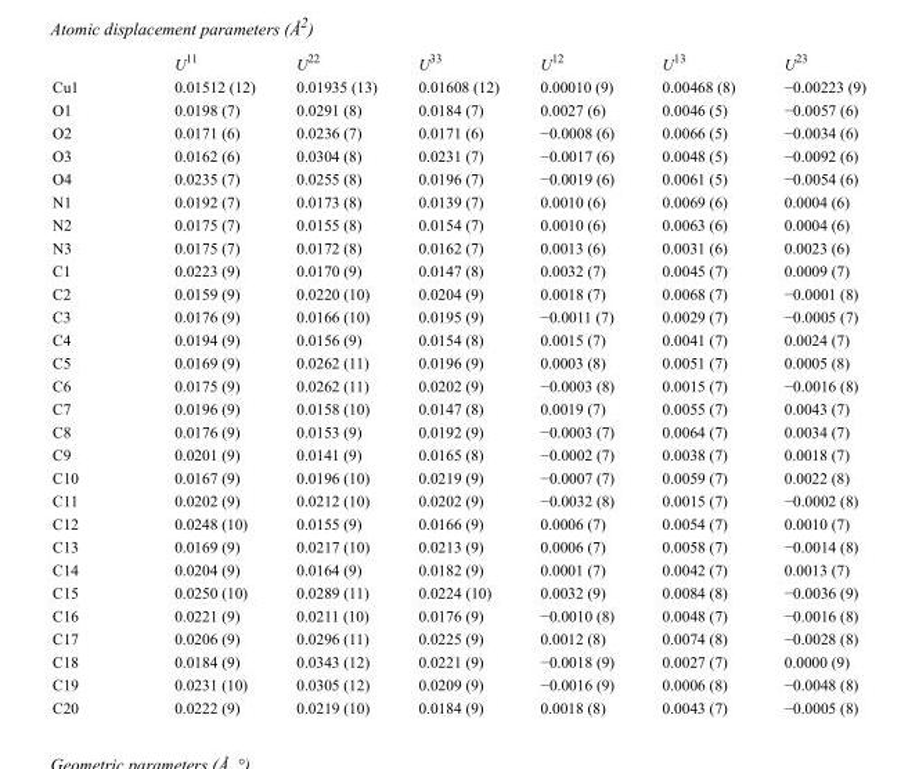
<table><thead><tr><td></td><td>U<sup>11</sup></td><td>U<sup>22</sup></td><td>U<sup>33</sup></td><td>U<sup>12</sup></td><td>U<sup>13</sup></td><td>U<sup>23</sup></td></tr></thead><tbody><tr><td>Cu1</td><td>0.01512 (12)</td><td>0.01935 (13)</td><td>0.01608 (12)</td><td>0.00010 (9)</td><td>0.00468 (8)</td><td>−0.00223 (9)</td></tr><tr><td>O1</td><td>0.0198 (7)</td><td>0.0291 (8)</td><td>0.0184 (7)</td><td>0.0027 (6)</td><td>0.0046 (5)</td><td>−0.0057 (6)</td></tr><tr><td>O2</td><td>0.0171 (6)</td><td>0.0236 (7)</td><td>0.0171 (6)</td><td>−0.0008 (6)</td><td>0.0066 (5)</td><td>−0.0034 (6)</td></tr><tr><td>O3</td><td>0.0162 (6)</td><td>0.0304 (8)</td><td>0.0231 (7)</td><td>−0.0017 (6)</td><td>0.0048 (5)</td><td>−0.0092 (6)</td></tr><tr><td>O4</td><td>0.0235 (7)</td><td>0.0255 (8)</td><td>0.0196 (7)</td><td>−0.0019 (6)</td><td>0.0061 (5)</td><td>−0.0054 (6)</td></tr><tr><td>N1</td><td>0.0192 (7)</td><td>0.0173 (8)</td><td>0.0139 (7)</td><td>0.0010 (6)</td><td>0.0069 (6)</td><td>0.0004 (6)</td></tr><tr><td>N2</td><td>0.0175 (7)</td><td>0.0155 (8)</td><td>0.0154 (7)</td><td>0.0010 (6)</td><td>0.0063 (6)</td><td>0.0004 (6)</td></tr><tr><td>N3</td><td>0.0175 (7)</td><td>0.0172 (8)</td><td>0.0162 (7)</td><td>0.0013 (6)</td><td>0.0031 (6)</td><td>0.0023 (6)</td></tr><tr><td>C1</td><td>0.0223 (9)</td><td>0.0170 (9)</td><td>0.0147 (8)</td><td>0.0032 (7)</td><td>0.0045 (7)</td><td>0.0009 (7)</td></tr><tr><td>C2</td><td>0.0159 (9)</td><td>0.0220 (10)</td><td>0.0204 (9)</td><td>0.0018 (7)</td><td>0.0068 (7)</td><td>−0.0001 (8)</td></tr><tr><td>C3</td><td>0.0176 (9)</td><td>0.0166 (10)</td><td>0.0195 (9)</td><td>−0.0011 (7)</td><td>0.0029 (7)</td><td>−0.0005 (7)</td></tr><tr><td>C4</td><td>0.0194 (9)</td><td>0.0156 (9)</td><td>0.0154 (8)</td><td>0.0015 (7)</td><td>0.0041 (7)</td><td>0.0024 (7)</td></tr><tr><td>C5</td><td>0.0169 (9)</td><td>0.0262 (11)</td><td>0.0196 (9)</td><td>0.0003 (8)</td><td>0.0051 (7)</td><td>0.0005 (8)</td></tr><tr><td>C6</td><td>0.0175 (9)</td><td>0.0262 (11)</td><td>0.0202 (9)</td><td>−0.0003 (8)</td><td>0.0015 (7)</td><td>−0.0016 (8)</td></tr><tr><td>C7</td><td>0.0196 (9)</td><td>0.0158 (10)</td><td>0.0147 (8)</td><td>0.0019 (7)</td><td>0.0055 (7)</td><td>0.0043 (7)</td></tr><tr><td>C8</td><td>0.0176 (9)</td><td>0.0153 (9)</td><td>0.0192 (9)</td><td>−0.0003 (7)</td><td>0.0064 (7)</td><td>0.0034 (7)</td></tr><tr><td>C9</td><td>0.0201 (9)</td><td>0.0141 (9)</td><td>0.0165 (8)</td><td>−0.0002 (7)</td><td>0.0038 (7)</td><td>0.0018 (7)</td></tr><tr><td>C10</td><td>0.0167 (9)</td><td>0.0196 (10)</td><td>0.0219 (9)</td><td>−0.0007 (7)</td><td>0.0059 (7)</td><td>0.0022 (8)</td></tr><tr><td>C11</td><td>0.0202 (9)</td><td>0.0212 (10)</td><td>0.0202 (9)</td><td>−0.0032 (8)</td><td>0.0015 (7)</td><td>−0.0002 (8)</td></tr><tr><td>C12</td><td>0.0248 (10)</td><td>0.0155 (9)</td><td>0.0166 (9)</td><td>0.0006 (7)</td><td>0.0054 (7)</td><td>0.0010 (7)</td></tr><tr><td>C13</td><td>0.0169 (9)</td><td>0.0217 (10)</td><td>0.0213 (9)</td><td>0.0006 (7)</td><td>0.0058 (7)</td><td>−0.0014 (8)</td></tr><tr><td>C14</td><td>0.0204 (9)</td><td>0.0164 (9)</td><td>0.0182 (9)</td><td>0.0001 (7)</td><td>0.0042 (7)</td><td>0.0013 (7)</td></tr><tr><td>C15</td><td>0.0250 (10)</td><td>0.0289 (11)</td><td>0.0224 (10)</td><td>0.0032 (9)</td><td>0.0084 (8)</td><td>−0.0036 (9)</td></tr><tr><td>C16</td><td>0.0221 (9)</td><td>0.0211 (10)</td><td>0.0176 (9)</td><td>−0.0010 (8)</td><td>0.0048 (7)</td><td>−0.0016 (8)</td></tr><tr><td>C17</td><td>0.0206 (9)</td><td>0.0296 (11)</td><td>0.0225 (9)</td><td>0.0012 (8)</td><td>0.0074 (8)</td><td>−0.0028 (8)</td></tr><tr><td>C18</td><td>0.0184 (9)</td><td>0.0343 (12)</td><td>0.0221 (9)</td><td>−0.0018 (9)</td><td>0.0027 (7)</td><td>0.0000 (9)</td></tr><tr><td>C19</td><td>0.0231 (10)</td><td>0.0305 (12)</td><td>0.0209 (9)</td><td>−0.0016 (9)</td><td>0.0006 (8)</td><td>−0.0048 (8)</td></tr><tr><td>C20</td><td>0.0222 (9)</td><td>0.0219 (10)</td><td>0.0184 (9)</td><td>0.0018 (8)</td><td>0.0043 (7)</td><td>−0.0005 (8)</td></tr></tbody></table>